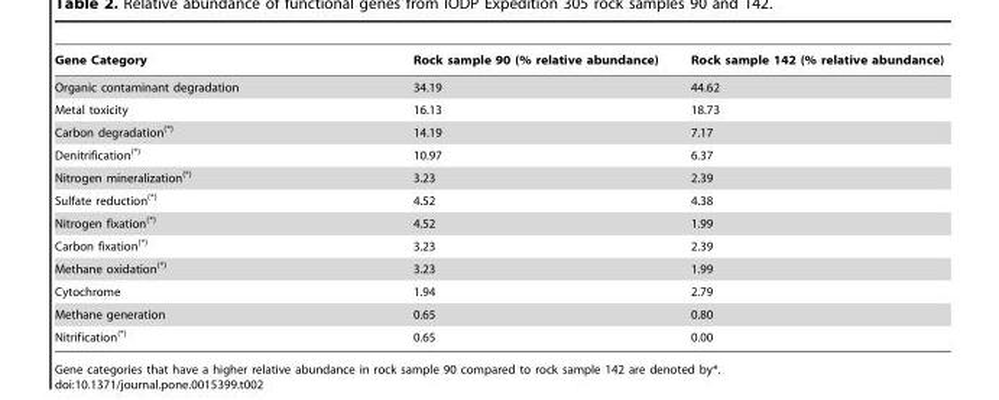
<table><thead><tr><td>Gene Category</td><td>Rock sample 90 (% relative abundance)</td><td>Rock sample 142 (% relative abundance)</td></tr></thead><tbody><tr><td>Organic contaminant degradation</td><td>34.19</td><td>44.62</td></tr><tr><td>Metal toxicity</td><td>16.13</td><td>18.73</td></tr><tr><td>Carbon degradation<sup>(*)</sup></td><td>14.19</td><td>7.17</td></tr><tr><td>Denitrification<sup>(*)</sup></td><td>10.97</td><td>6.37</td></tr><tr><td>Nitrogen mineralization<sup>(*)</sup></td><td>3.23</td><td>2.39</td></tr><tr><td>Sulfate reduction<sup>(*)</sup></td><td>4.52</td><td>4.38</td></tr><tr><td>Nitrogen fixation<sup>(*)</sup></td><td>4.52</td><td>1.99</td></tr><tr><td>Carbon fixation<sup>(*)</sup></td><td>3.23</td><td>2.39</td></tr><tr><td>Methane oxidation<sup>(*)</sup></td><td>3.23</td><td>1.99</td></tr><tr><td>Cytochrome</td><td>1.94</td><td>2.79</td></tr><tr><td>Methane generation</td><td>0.65</td><td>0.80</td></tr><tr><td>Nitrification<sup>(*)</sup></td><td>0.65</td><td>0.00</td></tr></tbody></table>